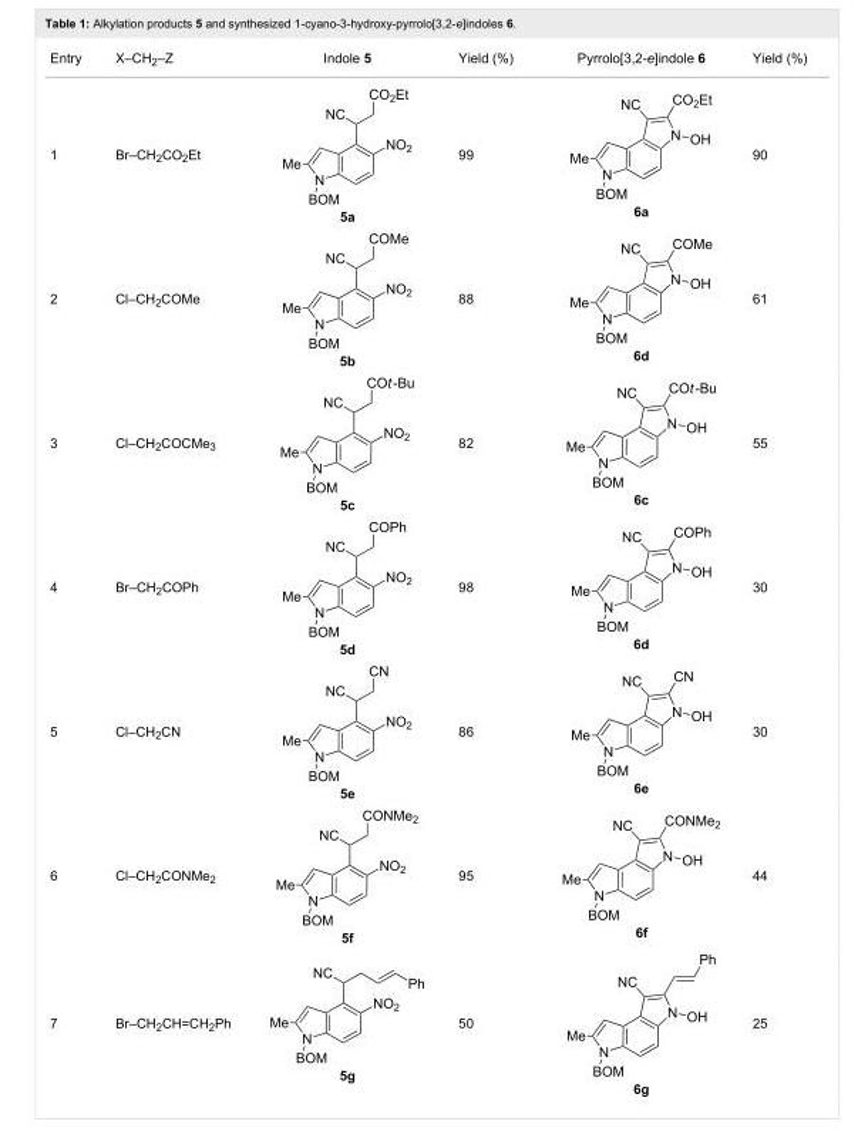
<table><tbody><tr><td>Entry</td><td>X–CH<sub>2</sub>–Z</td><td>Indole 5</td><td>Yield (%)</td><td>Pyrrolo[3,2-e]indole 6</td><td>Yield (%)</td></tr><tr><td>1</td><td>Br–CH<sub>2</sub>CO<sub>2</sub>Et</td><td>5a</td><td>99</td><td>6a</td><td>90</td></tr><tr><td>2</td><td>Cl–CH<sub>2</sub>COMe</td><td>5b</td><td>88</td><td>6d</td><td>61</td></tr><tr><td>3</td><td>Cl–CH<sub>2</sub>COCMe<sub>3</sub></td><td>5c</td><td>82</td><td>6c</td><td>55</td></tr><tr><td>4</td><td>Br–CH<sub>2</sub>COPh</td><td>5d</td><td>98</td><td>6d</td><td>30</td></tr><tr><td>5</td><td>Cl–CH<sub>2</sub>CN</td><td>5e</td><td>86</td><td>6e</td><td>30</td></tr><tr><td>6</td><td>Cl–CH<sub>2</sub>CONMe<sub>2</sub></td><td>5f</td><td>95</td><td>6f</td><td>44</td></tr><tr><td>7</td><td>Br–CH<sub>2</sub>CH=CH<sub>2</sub>Ph</td><td>5g</td><td>50</td><td>6g</td><td>25</td></tr></tbody></table>